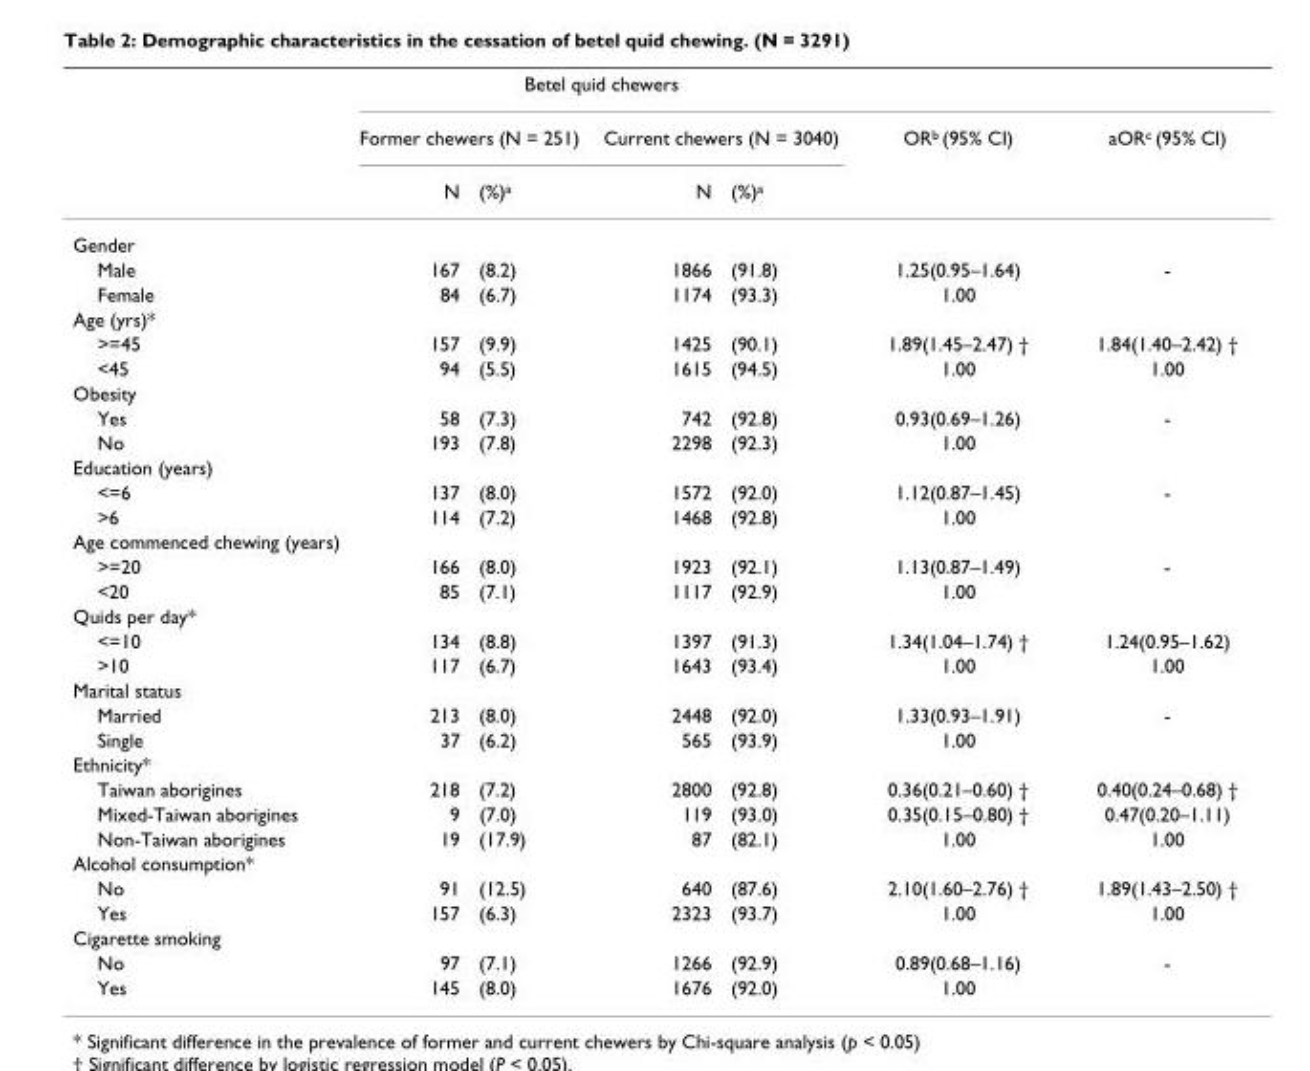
<table><thead><tr><td rowspan="3"></td><td colspan="4">Betel quid chewers</td><td rowspan="3">ORb (95% CI)</td><td rowspan="3">aORc (95% CI)</td></tr><tr><td colspan="2">Former chewers (N = 251)</td><td colspan="2">Current chewers (N = 3040)</td></tr><tr><td>N</td><td>(%)a</td><td>N</td><td>(%)a</td></tr></thead><tbody><tr><td colspan="7">Gender</td></tr><tr><td>Male</td><td>167</td><td>(8.2)</td><td>1866</td><td>(91.8)</td><td>1.25(0.95–1.64)</td><td>-</td></tr><tr><td>Female</td><td>84</td><td>(6.7)</td><td>1174</td><td>(93.3)</td><td>1.00</td><td></td></tr><tr><td colspan="7">Age (yrs)*</td></tr><tr><td>&gt;=45</td><td>157</td><td>(9.9)</td><td>1425</td><td>(90.1)</td><td>1.89(1.45–2.47) †</td><td>1.84(1.40–2.42) †</td></tr><tr><td>&lt;45</td><td>94</td><td>(5.5)</td><td>1615</td><td>(94.5)</td><td>1.00</td><td>1.00</td></tr><tr><td colspan="7">Obesity</td></tr><tr><td>Yes</td><td>58</td><td>(7.3)</td><td>742</td><td>(92.8)</td><td>0.93(0.69–1.26)</td><td>-</td></tr><tr><td>No</td><td>193</td><td>(7.8)</td><td>2298</td><td>(92.3)</td><td>1.00</td><td></td></tr><tr><td colspan="7">Education (years)</td></tr><tr><td>&lt;=6</td><td>137</td><td>(8.0)</td><td>1572</td><td>(92.0)</td><td>1.12(0.87–1.45)</td><td>-</td></tr><tr><td>&gt;6</td><td>114</td><td>(7.2)</td><td>1468</td><td>(92.8)</td><td>1.00</td><td></td></tr><tr><td colspan="7">Age commenced chewing (years)</td></tr><tr><td>&gt;=20</td><td>166</td><td>(8.0)</td><td>1923</td><td>(92.1)</td><td>1.13(0.87–1.49)</td><td>-</td></tr><tr><td>&lt;20</td><td>85</td><td>(7.1)</td><td>1117</td><td>(92.9)</td><td>1.00</td><td></td></tr><tr><td colspan="7">Quids per day*</td></tr><tr><td>&lt;=10</td><td>134</td><td>(8.8)</td><td>1397</td><td>(91.3)</td><td>1.34(1.04–1.74) †</td><td>1.24(0.95–1.62)</td></tr><tr><td>&gt;10</td><td>117</td><td>(6.7)</td><td>1643</td><td>(93.4)</td><td>1.00</td><td>1.00</td></tr><tr><td colspan="7">Marital status</td></tr><tr><td>Married</td><td>213</td><td>(8.0)</td><td>2448</td><td>(92.0)</td><td>1.33(0.93–1.91)</td><td>-</td></tr><tr><td>Single</td><td>37</td><td>(6.2)</td><td>565</td><td>(93.9)</td><td>1.00</td><td></td></tr><tr><td colspan="7">Ethnicity*</td></tr><tr><td>Taiwan aborigines</td><td>218</td><td>(7.2)</td><td>2800</td><td>(92.8)</td><td>0.36(0.21–0.60) †</td><td>0.40(0.24–0.68) †</td></tr><tr><td>Mixed-Taiwan aborigines</td><td>9</td><td>(7.0)</td><td>119</td><td>(93.0)</td><td>0.35(0.15–0.80) †</td><td>0.47(0.20–1.11)</td></tr><tr><td>Non-Taiwan aborigines</td><td>19</td><td>(17.9)</td><td>87</td><td>(82.1)</td><td>1.00</td><td>1.00</td></tr><tr><td colspan="7">Alcohol consumption*</td></tr><tr><td>No</td><td>91</td><td>(12.5)</td><td>640</td><td>(87.6)</td><td>2.10(1.60–2.76) †</td><td>1.89(1.43–2.50) †</td></tr><tr><td>Yes</td><td>157</td><td>(6.3)</td><td>2323</td><td>(93.7)</td><td>1.00</td><td>1.00</td></tr><tr><td colspan="7">Cigarette smoking</td></tr><tr><td>No</td><td>97</td><td>(7.1)</td><td>1266</td><td>(92.9)</td><td>0.89(0.68–1.16)</td><td>-</td></tr><tr><td>Yes</td><td>145</td><td>(8.0)</td><td>1676</td><td>(92.0)</td><td>1.00</td><td></td></tr></tbody></table>